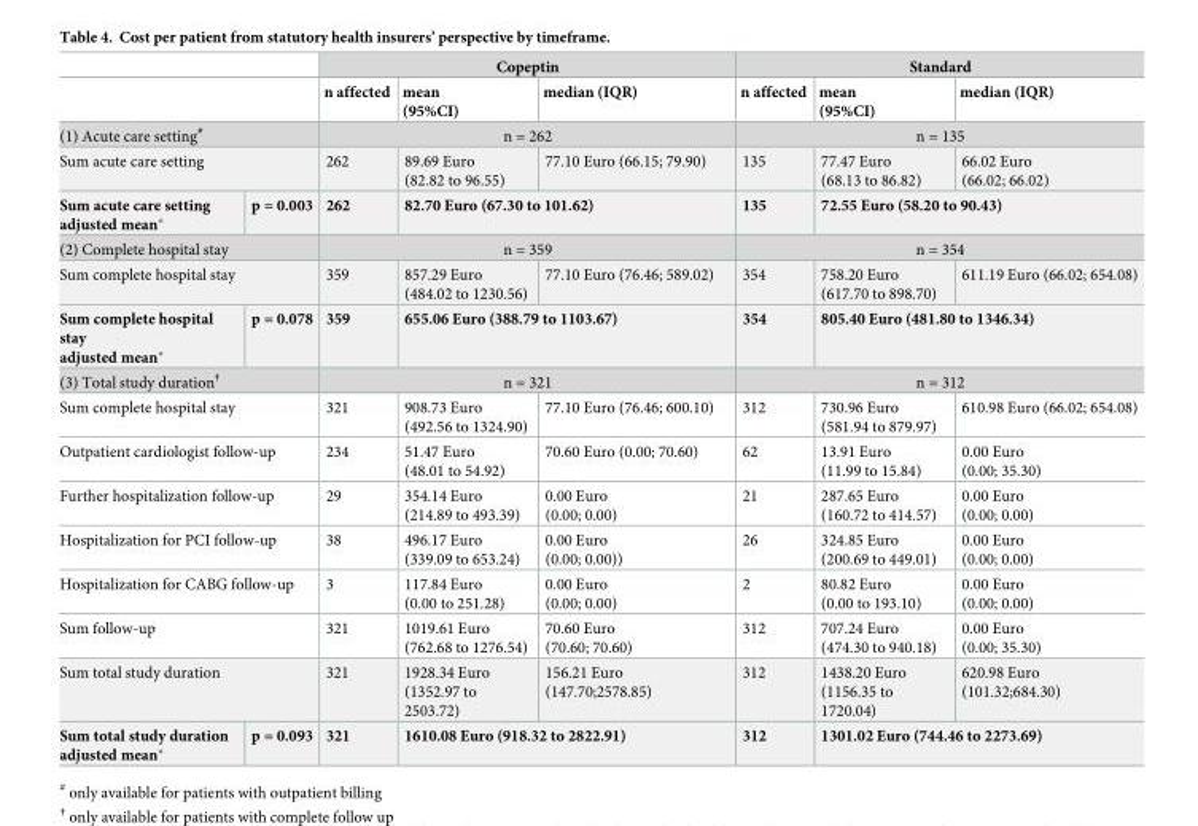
<table><thead><tr><td rowspan="2"></td><td rowspan="2"></td><td colspan="3">Copeptin</td><td colspan="3">Standard</td></tr><tr><td>n affected</td><td>mean (95%CI)</td><td>median (IQR)</td><td>n affected</td><td>mean (95%CI)</td><td>median (IQR)</td></tr></thead><tbody><tr><td colspan="2">(1) Acute care setting<sup>#</sup></td><td colspan="3">n = 262</td><td colspan="3">n = 135</td></tr><tr><td colspan="2">Sum acute care setting</td><td>262</td><td>89.69 Euro (82.82 to 96.55)</td><td>77.10 Euro (66.15; 79.90)</td><td>135</td><td>77.47 Euro (68.13 to 86.82)</td><td>66.02 Euro (66.02; 66.02)</td></tr><tr><td>Sum acute care setting adjusted mean*</td><td>p = 0.003</td><td>262</td><td colspan="2">82.70 Euro (67.30 to 101.62)</td><td>135</td><td colspan="2">72.55 Euro (58.20 to 90.43)</td></tr><tr><td colspan="2">(2) Complete hospital stay</td><td colspan="3">n = 359</td><td colspan="3">n = 354</td></tr><tr><td colspan="2">Sum complete hospital stay</td><td>359</td><td>857.29 Euro (484.02 to 1230.56)</td><td>77.10 Euro (76.46; 589.02)</td><td>354</td><td>758.20 Euro (617.70 to 898.70)</td><td>611.19 Euro (66.02; 654.08)</td></tr><tr><td>Sum complete hospital stay adjusted mean*</td><td>p = 0.078</td><td>359</td><td colspan="2">655.06 Euro (388.79 to 1103.67)</td><td>354</td><td colspan="2">805.40 Euro (481.80 to 1346.34)</td></tr><tr><td colspan="2">(3) Total study duration<sup>†</sup></td><td colspan="3">n = 321</td><td colspan="3">n = 312</td></tr><tr><td colspan="2">Sum complete hospital stay</td><td>321</td><td>908.73 Euro (492.56 to 1324.90)</td><td>77.10 Euro (76.46; 600.10)</td><td>312</td><td>730.96 Euro (581.94 to 879.97)</td><td>610.98 Euro (66.02; 654.08)</td></tr><tr><td colspan="2">Outpatient cardiologist follow-up</td><td>234</td><td>51.47 Euro (48.01 to 54.92)</td><td>70.60 Euro (0.00; 70.60)</td><td>62</td><td>13.91 Euro (11.99 to 15.84)</td><td>0.00 Euro (0.00; 35.30)</td></tr><tr><td colspan="2">Further hospitalization follow-up</td><td>29</td><td>354.14 Euro (214.89 to 493.39)</td><td>0.00 Euro (0.00; 0.00)</td><td>21</td><td>287.65 Euro (160.72 to 414.57)</td><td>0.00 Euro (0.00; 0.00)</td></tr><tr><td colspan="2">Hospitalization for PCI follow-up</td><td>38</td><td>496.17 Euro (339.09 to 653.24)</td><td>0.00 Euro (0.00; 0.00))</td><td>26</td><td>324.85 Euro (200.69 to 449.01)</td><td>0.00 Euro (0.00; 0.00)</td></tr><tr><td colspan="2">Hospitalization for CABG follow-up</td><td>3</td><td>117.84 Euro (0.00 to 251.28)</td><td>0.00 Euro (0.00; 0.00)</td><td>2</td><td>80.82 Euro (0.00 to 193.10)</td><td>0.00 Euro (0.00; 0.00)</td></tr><tr><td colspan="2">Sum follow-up</td><td>321</td><td>1019.61 Euro (762.68 to 1276.54)</td><td>70.60 Euro (70.60; 70.60)</td><td>312</td><td>707.24 Euro (474.30 to 940.18)</td><td>0.00 Euro (0.00; 35.30)</td></tr><tr><td colspan="2">Sum total study duration</td><td>321</td><td>1928.34 Euro (1352.97 to 2503.72)</td><td>156.21 Euro (147.70;2578.85)</td><td>312</td><td>1438.20 Euro (1156.35 to 1720.04)</td><td>620.98 Euro (101.32;684.30)</td></tr><tr><td>Sum total study duration adjusted mean*</td><td>p = 0.093</td><td>321</td><td colspan="2">1610.08 Euro (918.32 to 2822.91)</td><td>312</td><td colspan="2">1301.02 Euro (744.46 to 2273.69)</td></tr></tbody></table>